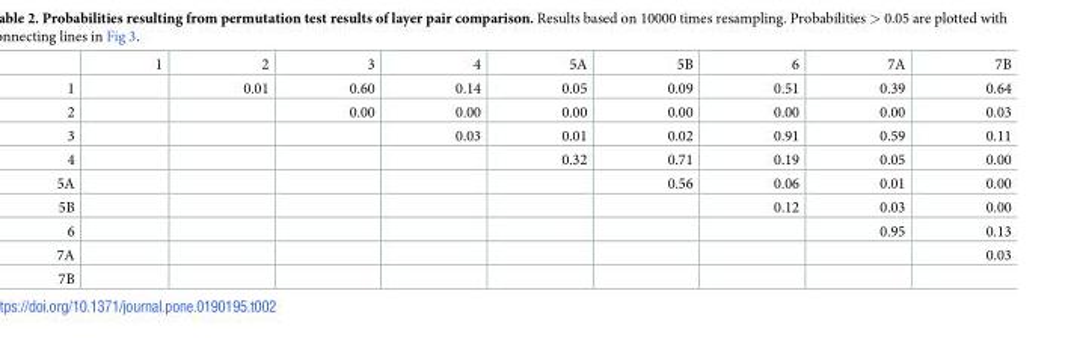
<table><thead><tr><td></td><td>1</td><td>2</td><td>3</td><td>4</td><td>5A</td><td>5B</td><td>6</td><td>7A</td><td>7B</td></tr></thead><tbody><tr><td>1</td><td></td><td>0.01</td><td>0.60</td><td>0.14</td><td>0.05</td><td>0.09</td><td>0.51</td><td>0.39</td><td>0.64</td></tr><tr><td>2</td><td></td><td></td><td>0.00</td><td>0.00</td><td>0.00</td><td>0.00</td><td>0.00</td><td>0.00</td><td>0.03</td></tr><tr><td>3</td><td></td><td></td><td></td><td>0.03</td><td>0.01</td><td>0.02</td><td>0.91</td><td>0.59</td><td>0.11</td></tr><tr><td>4</td><td></td><td></td><td></td><td></td><td>0.32</td><td>0.71</td><td>0.19</td><td>0.05</td><td>0.00</td></tr><tr><td>5A</td><td></td><td></td><td></td><td></td><td></td><td>0.56</td><td>0.06</td><td>0.01</td><td>0.00</td></tr><tr><td>5B</td><td></td><td></td><td></td><td></td><td></td><td></td><td>0.12</td><td>0.03</td><td>0.00</td></tr><tr><td>6</td><td></td><td></td><td></td><td></td><td></td><td></td><td></td><td>0.95</td><td>0.13</td></tr><tr><td>7A</td><td></td><td></td><td></td><td></td><td></td><td></td><td></td><td></td><td>0.03</td></tr><tr><td>7B</td><td></td><td></td><td></td><td></td><td></td><td></td><td></td><td></td><td></td></tr></tbody></table>